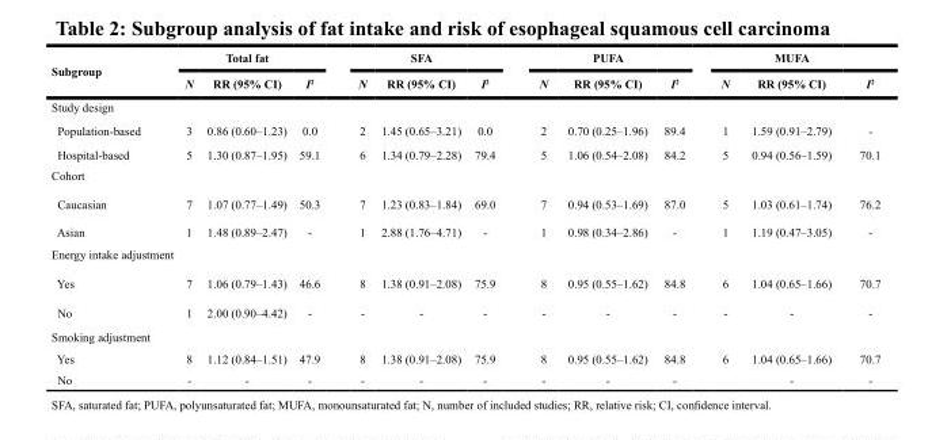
<table><thead><tr><td rowspan="2">Subgroup</td><td colspan="3">Total fat</td><td colspan="3">SFA</td><td colspan="3">PUFA</td><td colspan="3">MUFA</td></tr><tr><td>N</td><td>RR (95% CI)</td><td>I<sup>2</sup></td><td>N</td><td>RR (95% CI)</td><td>I<sup>2</sup></td><td>N</td><td>RR (95% CI)</td><td>I<sup>2</sup></td><td>N</td><td>RR (95% CI)</td><td>I<sup>2</sup></td></tr></thead><tbody><tr><td colspan="13">Study design</td></tr><tr><td>Population-based</td><td>3</td><td>0.86 (0.60–1.23)</td><td>0.0</td><td>2</td><td>1.45 (0.65–3.21)</td><td>0.0</td><td>2</td><td>0.70 (0.25–1.96)</td><td>89.4</td><td>1</td><td>1.59 (0.91–2.79)</td><td>-</td></tr><tr><td>Hospital-based</td><td>5</td><td>1.30 (0.87–1.95)</td><td>59.1</td><td>6</td><td>1.34 (0.79–2.28)</td><td>79.4</td><td>5</td><td>1.06 (0.54–2.08)</td><td>84.2</td><td>5</td><td>0.94 (0.56–1.59)</td><td>70.1</td></tr><tr><td colspan="13">Cohort</td></tr><tr><td>Caucasian</td><td>7</td><td>1.07 (0.77–1.49)</td><td>50.3</td><td>7</td><td>1.23 (0.83–1.84)</td><td>69.0</td><td>7</td><td>0.94 (0.53–1.69)</td><td>87.0</td><td>5</td><td>1.03 (0.61–1.74)</td><td>76.2</td></tr><tr><td>Asian</td><td>1</td><td>1.48 (0.89–2.47)</td><td>-</td><td>1</td><td>2.88 (1.76–4.71)</td><td>-</td><td>1</td><td>0.98 (0.34–2.86)</td><td>-</td><td>1</td><td>1.19 (0.47–3.05)</td><td>-</td></tr><tr><td colspan="13">Energy intake adjustment</td></tr><tr><td>Yes</td><td>7</td><td>1.06 (0.79–1.43)</td><td>46.6</td><td>8</td><td>1.38 (0.91–2.08)</td><td>75.9</td><td>8</td><td>0.95 (0.55–1.62)</td><td>84.8</td><td>6</td><td>1.04 (0.65–1.66)</td><td>70.7</td></tr><tr><td>No</td><td>1</td><td>2.00 (0.90–4.42)</td><td>-</td><td>-</td><td>-</td><td>-</td><td>-</td><td>-</td><td>-</td><td>-</td><td>-</td><td>-</td></tr><tr><td colspan="13">Smoking adjustment</td></tr><tr><td>Yes</td><td>8</td><td>1.12 (0.84–1.51)</td><td>47.9</td><td>8</td><td>1.38 (0.91–2.08)</td><td>75.9</td><td>8</td><td>0.95 (0.55–1.62)</td><td>84.8</td><td>6</td><td>1.04 (0.65–1.66)</td><td>70.7</td></tr><tr><td>No</td><td>-</td><td>-</td><td>-</td><td>-</td><td>-</td><td>-</td><td>-</td><td>-</td><td>-</td><td></td><td>-</td><td>-</td></tr></tbody></table>